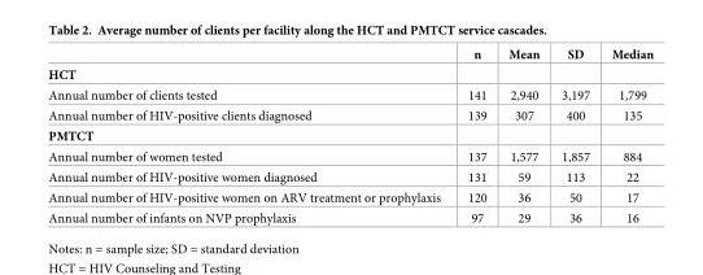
<table><thead><tr><td></td><td>n</td><td>Mean</td><td>SD</td><td>Median</td></tr></thead><tbody><tr><td colspan="5">HCT</td></tr><tr><td>Annual number of clients tested</td><td>141</td><td>2,940</td><td>3,197</td><td>1,799</td></tr><tr><td>Annual number of HIV-positive clients diagnosed</td><td>139</td><td>307</td><td>400</td><td>135</td></tr><tr><td colspan="5">PMTCT</td></tr><tr><td>Annual number of women tested</td><td>137</td><td>1,577</td><td>1,857</td><td>884</td></tr><tr><td>Annual number of HIV-positive women diagnosed</td><td>131</td><td>59</td><td>113</td><td>22</td></tr><tr><td>Annual number of HIV-positive women on ARV treatment or prophylaxis</td><td>120</td><td>36</td><td>50</td><td>17</td></tr><tr><td>Annual number of infants on NVP prophylaxis</td><td>97</td><td>29</td><td>36</td><td>16</td></tr></tbody></table>